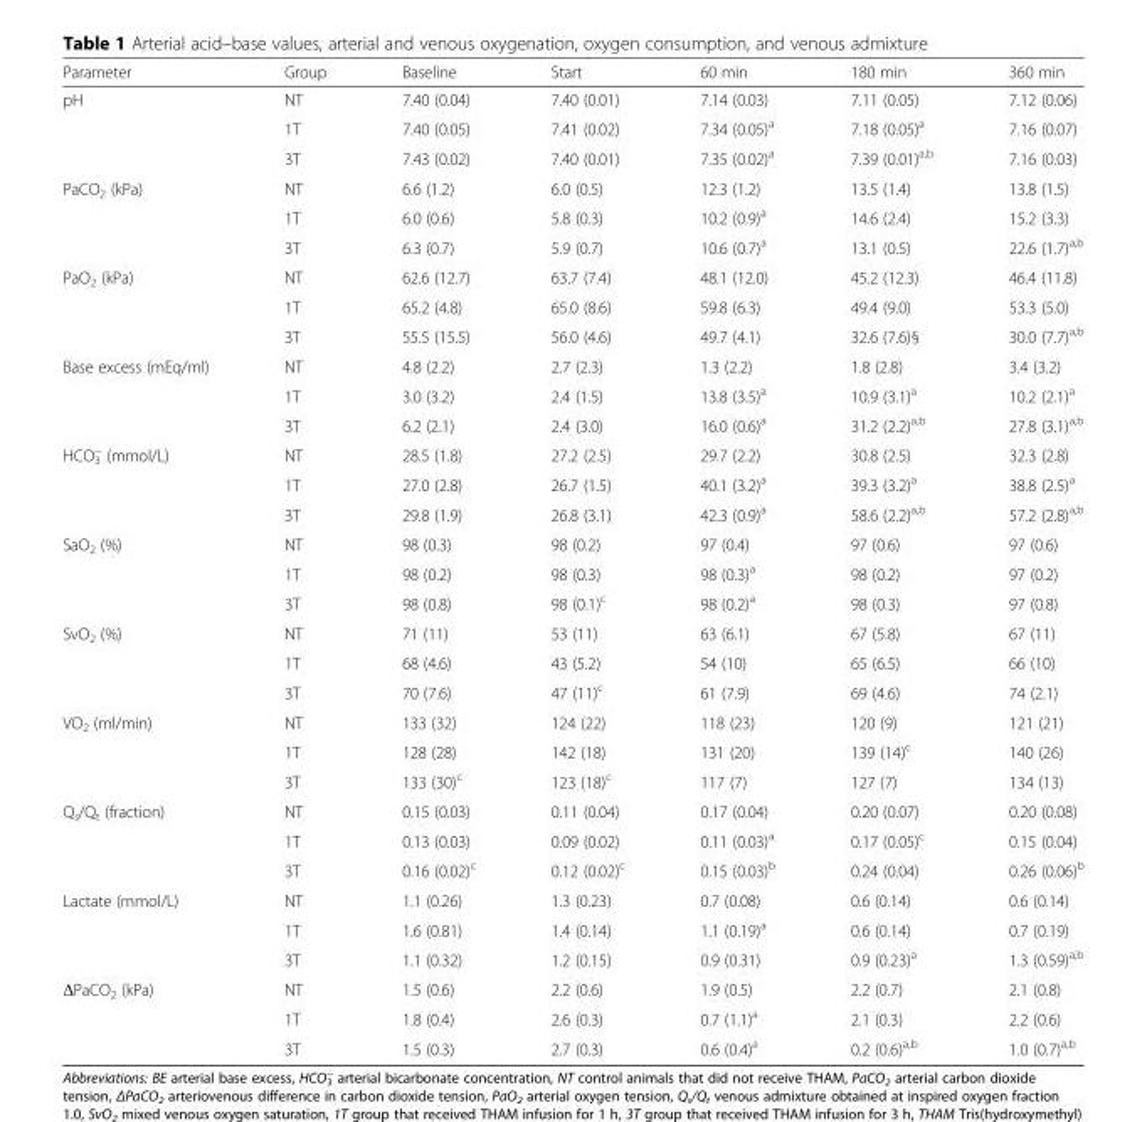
<table><thead><tr><td>Parameter</td><td>Group</td><td>Baseline</td><td>Start</td><td>60 min</td><td>180 min</td><td>360 min</td></tr></thead><tbody><tr><td rowspan="3">pH</td><td>NT</td><td>7.40 (0.04)</td><td>7.40 (0.01)</td><td>7.14 (0.03)</td><td>7.11 (0.05)</td><td>7.12 (0.06)</td></tr><tr><td>1T</td><td>7.40 (0.05)</td><td>7.41 (0.02)</td><td>7.34 (0.05)<sup>a</sup></td><td>7.18 (0.05)<sup>a</sup></td><td>7.16 (0.07)</td></tr><tr><td>3T</td><td>7.43 (0.02)</td><td>7.40 (0.01)</td><td>7.35 (0.02)<sup>a</sup></td><td>7.39 (0.01)<sup>a,b</sup></td><td>7.16 (0.03)</td></tr><tr><td rowspan="3">PaCO<sub>2</sub> (kPa)</td><td>NT</td><td>6.6 (1.2)</td><td>6.0 (0.5)</td><td>12.3 (1.2)</td><td>13.5 (1.4)</td><td>13.8 (1.5)</td></tr><tr><td>1T</td><td>6.0 (0.6)</td><td>5.8 (0.3)</td><td>10.2 (0.9)<sup>a</sup></td><td>14.6 (2.4)</td><td>15.2 (3.3)</td></tr><tr><td>3T</td><td>6.3 (0.7)</td><td>5.9 (0.7)</td><td>10.6 (0.7)<sup>a</sup></td><td>13.1 (0.5)</td><td>22.6 (1.7)<sup>a,b</sup></td></tr><tr><td rowspan="3">PaO<sub>2</sub> (kPa)</td><td>NT</td><td>62.6 (12.7)</td><td>63.7 (7.4)</td><td>48.1 (12.0)</td><td>45.2 (12.3)</td><td>46.4 (11.8)</td></tr><tr><td>1T</td><td>65.2 (4.8)</td><td>65.0 (8.6)</td><td>59.8 (6.3)</td><td>49.4 (9.0)</td><td>53.3 (5.0)</td></tr><tr><td>3T</td><td>55.5 (15.5)</td><td>56.0 (4.6)</td><td>49.7 (4.1)</td><td>32.6 (7.6)§</td><td>30.0 (7.7)<sup>a,b</sup></td></tr><tr><td rowspan="3">Base excess (mEq/ml)</td><td>NT</td><td>4.8 (2.2)</td><td>2.7 (2.3)</td><td>1.3 (2.2)</td><td>1.8 (2.8)</td><td>3.4 (3.2)</td></tr><tr><td>1T</td><td>3.0 (3.2)</td><td>2.4 (1.5)</td><td>13.8 (3.5)<sup>a</sup></td><td>10.9 (3.1)<sup>a</sup></td><td>10.2 (2.1)<sup>a</sup></td></tr><tr><td>3T</td><td>6.2 (2.1)</td><td>2.4 (3.0)</td><td>16.0 (0.6)<sup>a</sup></td><td>31.2 (2.2)<sup>a,b</sup></td><td>27.8 (3.1)<sup>a,b</sup></td></tr><tr><td rowspan="3">HCO<sub>3</sub> <sup>−</sup> (mmol/L)</td><td>NT</td><td>28.5 (1.8)</td><td>27.2 (2.5)</td><td>29.7 (2.2)</td><td>30.8 (2.5)</td><td>32.3 (2.8)</td></tr><tr><td>1T</td><td>27.0 (2.8)</td><td>26.7 (1.5)</td><td>40.1 (3.2)<sup>a</sup></td><td>39.3 (3.2)<sup>a</sup></td><td>38.8 (2.5)<sup>a</sup></td></tr><tr><td>3T</td><td>29.8 (1.9)</td><td>26.8 (3.1)</td><td>42.3 (0.9)<sup>a</sup></td><td>58.6 (2.2)<sup>a,b</sup></td><td>57.2 (2.8)<sup>a,b</sup></td></tr><tr><td rowspan="3">SaO<sub>2</sub> (%)</td><td>NT</td><td>98 (0.3)</td><td>98 (0.2)</td><td>97 (0.4)</td><td>97 (0.6)</td><td>97 (0.6)</td></tr><tr><td>1T</td><td>98 (0.2)</td><td>98 (0.3)</td><td>98 (0.3)<sup>a</sup></td><td>98 (0.2)</td><td>97 (0.2)</td></tr><tr><td>3T</td><td>98 (0.8)</td><td>98 (0.1)<sup>c</sup></td><td>98 (0.2)<sup>a</sup></td><td>98 (0.3)</td><td>97 (0.8)</td></tr><tr><td rowspan="3">SvO<sub>2</sub> (%)</td><td>NT</td><td>71 (11)</td><td>53 (11)</td><td>63 (6.1)</td><td>67 (5.8)</td><td>67 (11)</td></tr><tr><td>1T</td><td>68 (4.6)</td><td>43 (5.2)</td><td>54 (10)</td><td>65 (6.5)</td><td>66 (10)</td></tr><tr><td>3T</td><td>70 (7.6)</td><td>47 (11)<sup>c</sup></td><td>61 (7.9)</td><td>69 (4.6)</td><td>74 (2.1)</td></tr><tr><td rowspan="3">VO<sub>2</sub> (ml/min)</td><td>NT</td><td>133 (32)</td><td>124 (22)</td><td>118 (23)</td><td>120 (9)</td><td>121 (21)</td></tr><tr><td>1T</td><td>128 (28)</td><td>142 (18)</td><td>131 (20)</td><td>139 (14)<sup>c</sup></td><td>140 (26)</td></tr><tr><td>3T</td><td>133 (30)<sup>c</sup></td><td>123 (18)<sup>c</sup></td><td>117 (7)</td><td>127 (7)</td><td>134 (13)</td></tr><tr><td rowspan="3">Q<sub>s</sub>/Q<sub>t</sub> (fraction)</td><td>NT</td><td>0.15 (0.03)</td><td>0.11 (0.04)</td><td>0.17 (0.04)</td><td>0.20 (0.07)</td><td>0.20 (0.08)</td></tr><tr><td>1T</td><td>0.13 (0.03)</td><td>0.09 (0.02)</td><td>0.11 (0.03)<sup>a</sup></td><td>0.17 (0.05)<sup>c</sup></td><td>0.15 (0.04)</td></tr><tr><td>3T</td><td>0.16 (0.02)<sup>c</sup></td><td>0.12 (0.02)<sup>c</sup></td><td>0.15 (0.03)<sup>b</sup></td><td>0.24 (0.04)</td><td>0.26 (0.06)<sup>b</sup></td></tr><tr><td rowspan="3">Lactate (mmol/L)</td><td>NT</td><td>1.1 (0.26)</td><td>1.3 (0.23)</td><td>0.7 (0.08)</td><td>0.6 (0.14)</td><td>0.6 (0.14)</td></tr><tr><td>1T</td><td>1.6 (0.81)</td><td>1.4 (0.14)</td><td>1.1 (0.19)<sup>a</sup></td><td>0.6 (0.14)</td><td>0.7 (0.19)</td></tr><tr><td>3T</td><td>1.1 (0.32)</td><td>1.2 (0.15)</td><td>0.9 (0.31)</td><td>0.9 (0.23)<sup>a</sup></td><td>1.3 (0.59)<sup>a,b</sup></td></tr><tr><td rowspan="3">ΔPaCO<sub>2</sub> (kPa)</td><td>NT</td><td>1.5 (0.6)</td><td>2.2 (0.6)</td><td>1.9 (0.5)</td><td>2.2 (0.7)</td><td>2.1 (0.8)</td></tr><tr><td>1T</td><td>1.8 (0.4)</td><td>2.6 (0.3)</td><td>0.7 (1.1)<sup>a</sup></td><td>2.1 (0.3)</td><td>2.2 (0.6)</td></tr><tr><td>3T</td><td>1.5 (0.3)</td><td>2.7 (0.3)</td><td>0.6 (0.4)<sup>a</sup></td><td>0.2 (0.6)<sup>a,b</sup></td><td>1.0 (0.7)<sup>a,b</sup></td></tr></tbody></table>